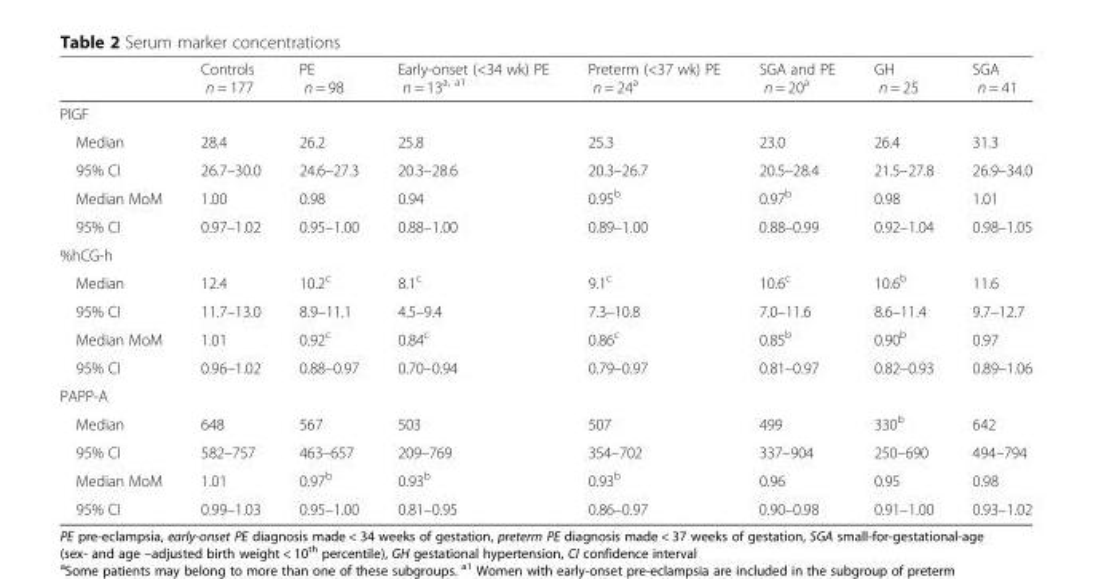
<table><thead><tr><td></td><td>Controls n = 177</td><td>PE n = 98</td><td>Early-onset (&lt;34 wk) PE n = 13<sup>a, a1</sup></td><td>Preterm (&lt;37 wk) PE n = 24<sup>a</sup></td><td>SGA and PE n = 20<sup>a</sup></td><td>GH n = 25</td><td>SGA n = 41</td></tr></thead><tbody><tr><td colspan="8">PlGF</td></tr><tr><td>Median</td><td>28.4</td><td>26.2</td><td>25.8</td><td>25.3</td><td>23.0</td><td>26.4</td><td>31.3</td></tr><tr><td>95% CI</td><td>26.7–30.0</td><td>24.6–27.3</td><td>20.3–28.6</td><td>20.3–26.7</td><td>20.5–28.4</td><td>21.5–27.8</td><td>26.9–34.0</td></tr><tr><td>Median MoM</td><td>1.00</td><td>0.98</td><td>0.94</td><td>0.95<sup>b</sup></td><td>0.97<sup>b</sup></td><td>0.98</td><td>1.01</td></tr><tr><td>95% CI</td><td>0.97–1.02</td><td>0.95–1.00</td><td>0.88–1.00</td><td>0.89–1.00</td><td>0.88–0.99</td><td>0.92–1.04</td><td>0.98–1.05</td></tr><tr><td colspan="8">%hCG-h</td></tr><tr><td>Median</td><td>12.4</td><td>10.2<sup>c</sup></td><td>8.1<sup>c</sup></td><td>9.1<sup>c</sup></td><td>10.6<sup>c</sup></td><td>10.6<sup>b</sup></td><td>11.6</td></tr><tr><td>95% CI</td><td>11.7–13.0</td><td>8.9–11.1</td><td>4.5–9.4</td><td>7.3–10.8</td><td>7.0–11.6</td><td>8.6–11.4</td><td>9.7–12.7</td></tr><tr><td>Median MoM</td><td>1.01</td><td>0.92<sup>c</sup></td><td>0.84<sup>c</sup></td><td>0.86<sup>c</sup></td><td>0.85<sup>b</sup></td><td>0.90<sup>b</sup></td><td>0.97</td></tr><tr><td>95% CI</td><td>0.96–1.02</td><td>0.88–0.97</td><td>0.70–0.94</td><td>0.79–0.97</td><td>0.81–0.97</td><td>0.82–0.93</td><td>0.89–1.06</td></tr><tr><td colspan="8">PAPP-A</td></tr><tr><td>Median</td><td>648</td><td>567</td><td>503</td><td>507</td><td>499</td><td>330<sup>b</sup></td><td>642</td></tr><tr><td>95% CI</td><td>582–757</td><td>463–657</td><td>209–769</td><td>354–702</td><td>337–904</td><td>250–690</td><td>494–794</td></tr><tr><td>Median MoM</td><td>1.01</td><td>0.97<sup>b</sup></td><td>0.93<sup>b</sup></td><td>0.93<sup>b</sup></td><td>0.96</td><td>0.95</td><td>0.98</td></tr><tr><td>95% CI</td><td>0.99–1.03</td><td>0.95–1.00</td><td>0.81–0.95</td><td>0.86–0.97</td><td>0.90–0.98</td><td>0.91–1.00</td><td>0.93–1.02</td></tr></tbody></table>